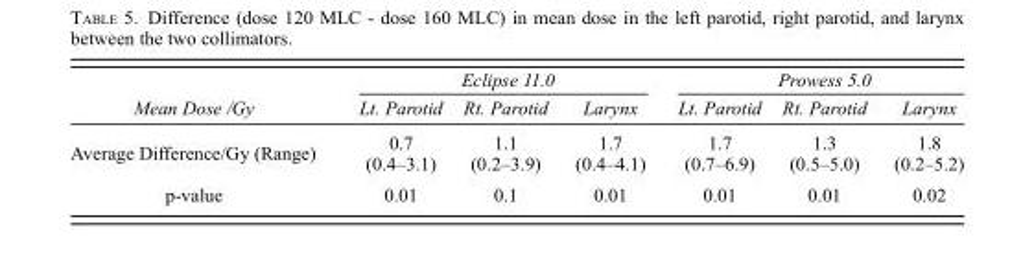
<table><thead><tr><td rowspan="2">Mean Dose /Gy</td><td colspan="3">Eclipse 11.0</td><td colspan="3">Prowess 5.0</td></tr><tr><td>Lt. Parotid</td><td>Rt. Parotid</td><td>Larynx</td><td>Lt. Parotid</td><td>Rt. Parotid</td><td>Larynx</td></tr></thead><tbody><tr><td rowspan="2">Average Difference/Gy (Range)</td><td>0.7</td><td>1.1</td><td>1.7</td><td>1.7</td><td>1.3</td><td>1.8</td></tr><tr><td>(0.4–3.1)</td><td>(0.2–3.9)</td><td>(0.4–4.1)</td><td>(0.7–6.9)</td><td>(0.5–5.0)</td><td>(0.2–5.2)</td></tr><tr><td>p-value</td><td>0.01</td><td>0.1</td><td>0.01</td><td>0.01</td><td>0.01</td><td>0.02</td></tr></tbody></table>